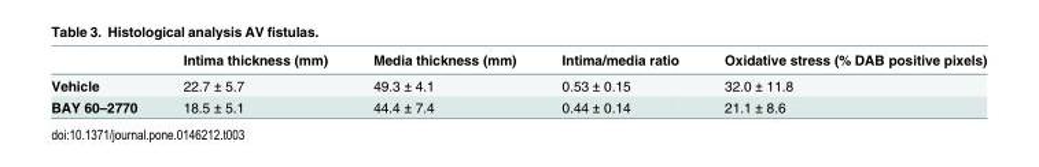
<table><thead><tr><td></td><td>Intima thickness (mm)</td><td>Media thickness (mm)</td><td>Intima/media ratio</td><td>Oxidative stress (% DAB positive pixels)</td></tr></thead><tbody><tr><td>Vehicle</td><td>22.7 ± 5.7</td><td>49.3 ± 4.1</td><td>0.53 ± 0.15</td><td>32.0 ± 11.8</td></tr><tr><td>BAY 60–2770</td><td>18.5 ± 5.1</td><td>44.4 ± 7.4</td><td>0.44 ± 0.14</td><td>21.1 ± 8.6</td></tr></tbody></table>